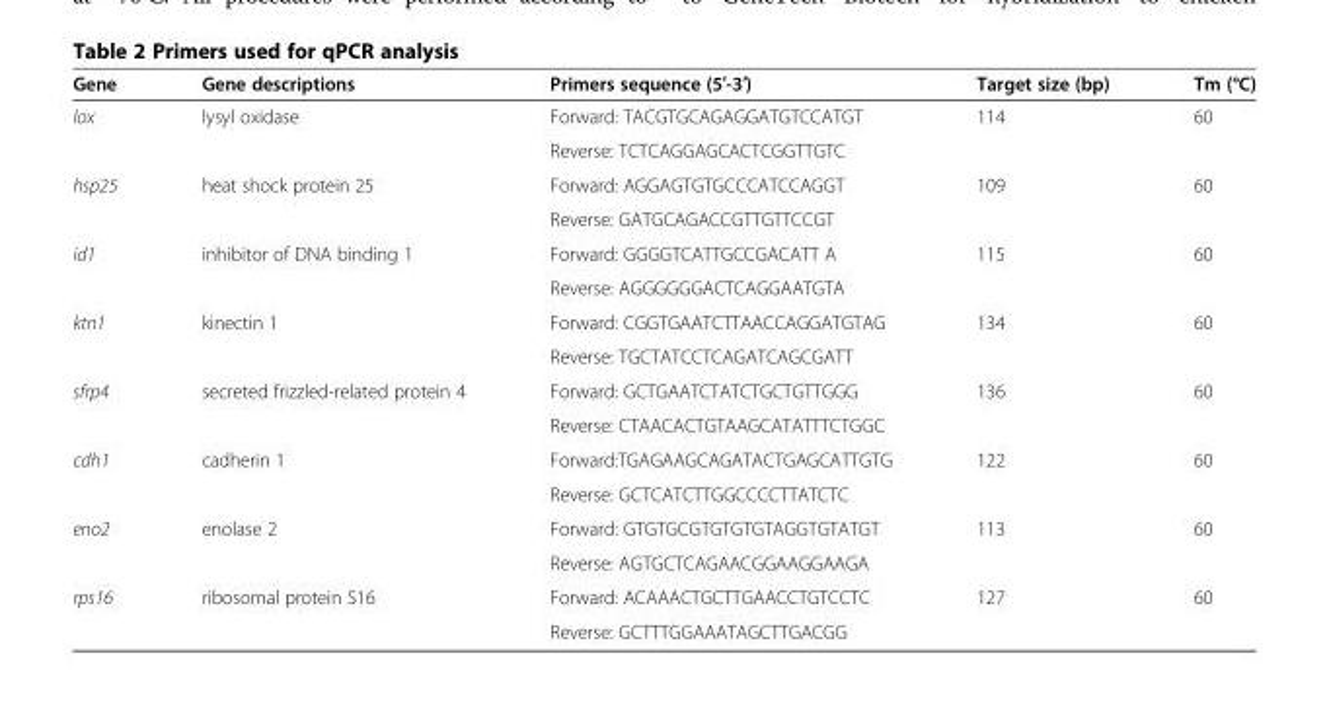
<table><thead><tr><td>Gene</td><td>Gene descriptions</td><td>Primers sequence (5′-3′)</td><td>Target size (bp)</td><td>Tm (°C)</td></tr></thead><tbody><tr><td rowspan="2">lox</td><td rowspan="2">lysyl oxidase</td><td>Forward: TACGTGCAGAGGATGTCCATGT</td><td rowspan="2">114</td><td rowspan="2">60</td></tr><tr><td>Reverse: TCTCAGGAGCACTCGGTTGTC</td></tr><tr><td rowspan="2">hsp25</td><td rowspan="2">heat shock protein 25</td><td>Forward: AGGAGTGTGCCCATCCAGGT</td><td rowspan="2">109</td><td rowspan="2">60</td></tr><tr><td>Reverse: GATGCAGACCGTTGTTCCGT</td></tr><tr><td rowspan="2">id1</td><td rowspan="2">inhibitor of DNA binding 1</td><td>Forward: GGGGTCATTGCCGACATT A</td><td rowspan="2">115</td><td rowspan="2">60</td></tr><tr><td>Reverse: AGGGGGGACTCAGGAATGTA</td></tr><tr><td rowspan="2">ktn1</td><td rowspan="2">kinectin 1</td><td>Forward: CGGTGAATCTTAACCAGGATGTAG</td><td rowspan="2">134</td><td rowspan="2">60</td></tr><tr><td>Reverse: TGCTATCCTCAGATCAGCGATT</td></tr><tr><td rowspan="2">sfrp4</td><td rowspan="2">secreted frizzled-related protein 4</td><td>Forward: GCTGAATCTATCTGCTGTTGGG</td><td rowspan="2">136</td><td rowspan="2">60</td></tr><tr><td>Reverse: CTAACACTGTAAGCATATTTCTGGC</td></tr><tr><td rowspan="2">cdh1</td><td rowspan="2">cadherin 1</td><td>Forward:TGAGAAGCAGATACTGAGCATTGTG</td><td rowspan="2">122</td><td rowspan="2">60</td></tr><tr><td>Reverse: GCTCATCTTGGCCCCTTATCTC</td></tr><tr><td rowspan="2">eno2</td><td rowspan="2">enolase 2</td><td>Forward: GTGTGCGTGTGTGTAGGTGTATGT</td><td rowspan="2">113</td><td rowspan="2">60</td></tr><tr><td>Reverse: AGTGCTCAGAACGGAAGGAAGA</td></tr><tr><td rowspan="2">rps16</td><td>ribosomal protein S16</td><td>Forward: ACAAACTGCTTGAACCTGTCCTC</td><td>127</td><td>60</td></tr><tr><td></td><td>Reverse: GCTTTGGAAATAGCTTGACGG</td><td></td><td></td></tr></tbody></table>